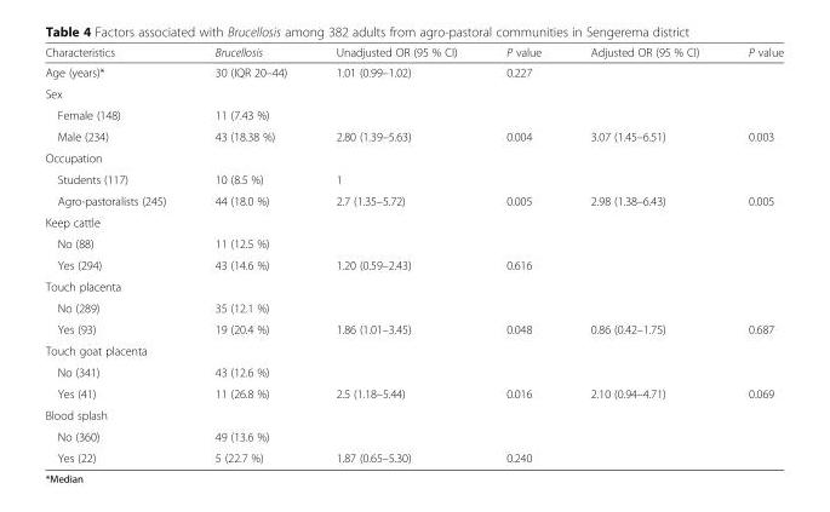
<table><thead><tr><td>Characteristics</td><td>Brucellosis</td><td>Unadjusted OR (95 % CI)</td><td>P value</td><td>Adjusted OR (95 % CI)</td><td>P value</td></tr></thead><tbody><tr><td>Age (years)*</td><td>30 (IQR 20–44)</td><td>1.01 (0.99–1.02)</td><td>0.227</td><td></td><td></td></tr><tr><td colspan="6">Sex</td></tr><tr><td>Female (148)</td><td>11 (7.43 %)</td><td></td><td></td><td></td><td></td></tr><tr><td>Male (234)</td><td>43 (18.38 %)</td><td>2.80 (1.39–5.63)</td><td>0.004</td><td>3.07 (1.45–6.51)</td><td>0.003</td></tr><tr><td colspan="6">Occupation</td></tr><tr><td>Students (117)</td><td>10 (8.5 %)</td><td>1</td><td></td><td></td><td></td></tr><tr><td>Agro-pastoralists (245)</td><td>44 (18.0 %)</td><td>2.7 (1.35–5.72)</td><td>0.005</td><td>2.98 (1.38–6.43)</td><td>0.005</td></tr><tr><td colspan="6">Keep cattle</td></tr><tr><td>No (88)</td><td>11 (12.5 %)</td><td></td><td></td><td></td><td></td></tr><tr><td>Yes (294)</td><td>43 (14.6 %)</td><td>1.20 (0.59–2.43)</td><td>0.616</td><td></td><td></td></tr><tr><td colspan="6">Touch placenta</td></tr><tr><td>No (289)</td><td>35 (12.1 %)</td><td></td><td></td><td></td><td></td></tr><tr><td>Yes (93)</td><td>19 (20.4 %)</td><td>1.86 (1.01–3.45)</td><td>0.048</td><td>0.86 (0.42–1.75)</td><td>0.687</td></tr><tr><td colspan="6">Touch goat placenta</td></tr><tr><td>No (341)</td><td>43 (12.6 %)</td><td></td><td></td><td></td><td></td></tr><tr><td>Yes (41)</td><td>11 (26.8 %)</td><td>2.5 (1.18–5.44)</td><td>0.016</td><td>2.10 (0.94–4.71)</td><td>0.069</td></tr><tr><td colspan="6">Blood splash</td></tr><tr><td>No (360)</td><td>49 (13.6 %)</td><td></td><td></td><td></td><td></td></tr><tr><td>Yes (22)</td><td>5 (22.7 %)</td><td>1.87 (0.65–5.30)</td><td>0.240</td><td></td><td></td></tr></tbody></table>